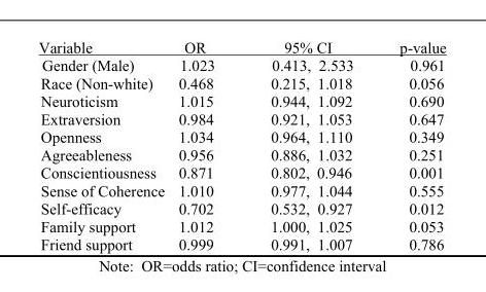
<table><thead><tr><td>Variable</td><td>OR</td><td>95% CI</td><td>p-value</td></tr></thead><tbody><tr><td>Gender (Male)</td><td>1.023</td><td>0.413, 2.533</td><td>0.961</td></tr><tr><td>Race (Non-white)</td><td>0.468</td><td>0.215, 1.018</td><td>0.056</td></tr><tr><td>Neuroticism</td><td>1.015</td><td>0.944, 1.092</td><td>0.690</td></tr><tr><td>Extraversion</td><td>0.984</td><td>0.921, 1.053</td><td>0.647</td></tr><tr><td>Openness</td><td>1.034</td><td>0.964, 1.110</td><td>0.349</td></tr><tr><td>Agreeableness</td><td>0.956</td><td>0.886, 1.032</td><td>0.251</td></tr><tr><td>Conscientiousness</td><td>0.871</td><td>0.802, 0.946</td><td>0.001</td></tr><tr><td>Sense of Coherence</td><td>1.010</td><td>0.977, 1.044</td><td>0.555</td></tr><tr><td>Self-efficacy</td><td>0.702</td><td>0.532, 0.927</td><td>0.012</td></tr><tr><td>Family support</td><td>1.012</td><td>1.000, 1.025</td><td>0.053</td></tr><tr><td>Friend support</td><td>0.999</td><td>0.991, 1.007</td><td>0.786</td></tr></tbody></table>